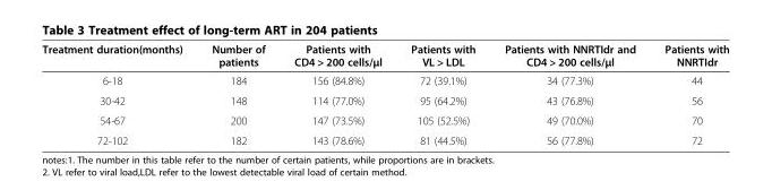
<table><thead><tr><td>Treatment duration(months)</td><td>Number of patients</td><td>Patients with CD4 &gt; 200 cells/μl</td><td>Patients with VL &gt; LDL</td><td>Patients with NNRTIdr and CD4 &gt; 200 cells/μl</td><td>Patients with NNRTIdr</td></tr></thead><tbody><tr><td>6-18</td><td>184</td><td>156 (84.8%)</td><td>72 (39.1%)</td><td>34 (77.3%)</td><td>44</td></tr><tr><td>30-42</td><td>148</td><td>114 (77.0%)</td><td>95 (64.2%)</td><td>43 (76.8%)</td><td>56</td></tr><tr><td>54-67</td><td>200</td><td>147 (73.5%)</td><td>105 (52.5%)</td><td>49 (70.0%)</td><td>70</td></tr><tr><td>72-102</td><td>182</td><td>143 (78.6%)</td><td>81 (44.5%)</td><td>56 (77.8%)</td><td>72</td></tr></tbody></table>